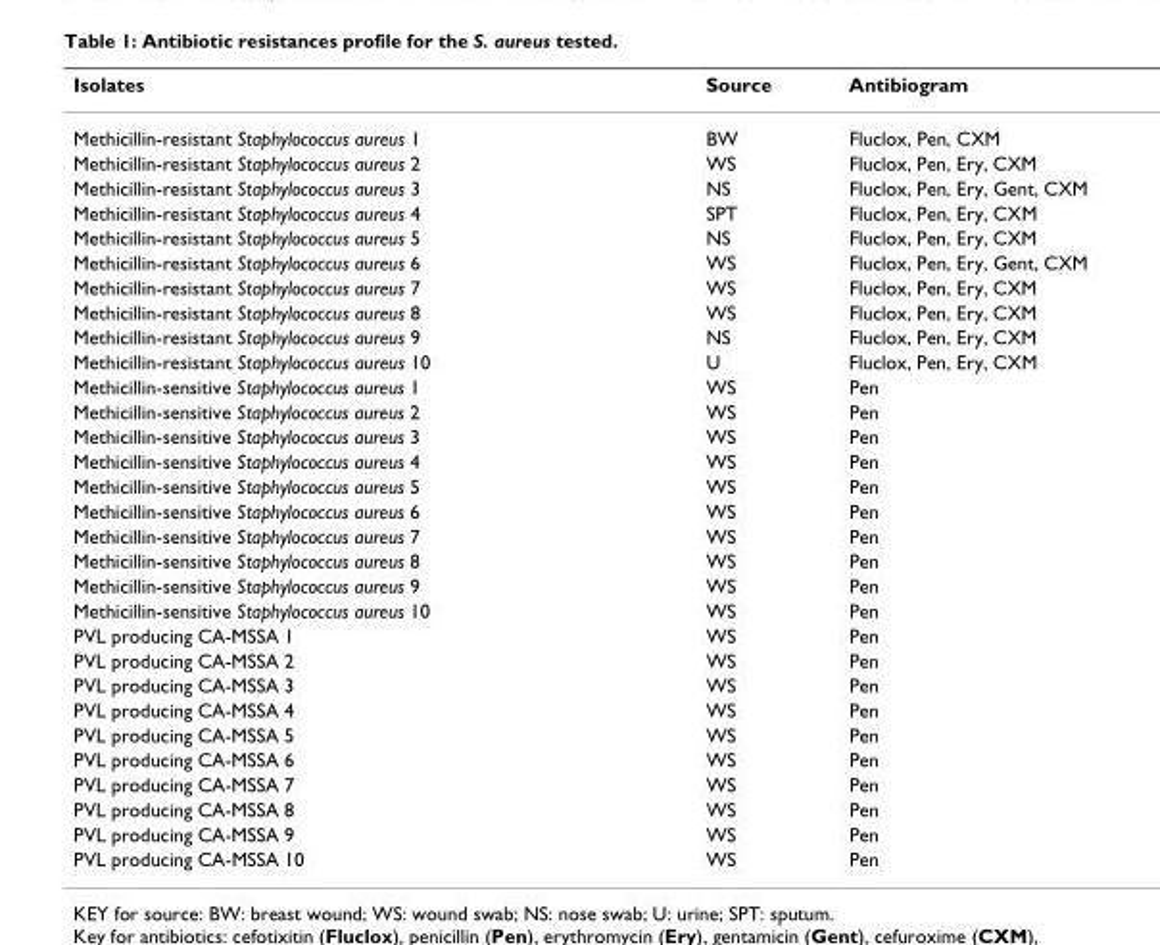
<table><thead><tr><td>Isolates</td><td>Source</td><td>Antibiogram</td></tr></thead><tbody><tr><td>Methicillin-resistant Staphylococcus aureus 1</td><td>BW</td><td>Fluclox, Pen, CXM</td></tr><tr><td>Methicillin-resistant Staphylococcus aureus 2</td><td>WS</td><td>Fluclox, Pen, Ery, CXM</td></tr><tr><td>Methicillin-resistant Staphylococcus aureus 3</td><td>NS</td><td>Fluclox, Pen, Ery, Gent, CXM</td></tr><tr><td>Methicillin-resistant Staphylococcus aureus 4</td><td>SPT</td><td>Fluclox, Pen, Ery, CXM</td></tr><tr><td>Methicillin-resistant Staphylococcus aureus 5</td><td>NS</td><td>Fluclox, Pen, Ery, CXM</td></tr><tr><td>Methicillin-resistant Staphylococcus aureus 6</td><td>WS</td><td>Fluclox, Pen, Ery, Gent, CXM</td></tr><tr><td>Methicillin-resistant Staphylococcus aureus 7</td><td>WS</td><td>Fluclox, Pen, Ery, CXM</td></tr><tr><td>Methicillin-resistant Staphylococcus aureus 8</td><td>WS</td><td>Fluclox, Pen, Ery, CXM</td></tr><tr><td>Methicillin-resistant Staphylococcus aureus 9</td><td>NS</td><td>Fluclox, Pen, Ery, CXM</td></tr><tr><td>Methicillin-resistant Staphylococcus aureus 10</td><td>U</td><td>Fluclox, Pen, Ery, CXM</td></tr><tr><td>Methicillin-sensitive Staphylococcus aureus 1</td><td>WS</td><td>Pen</td></tr><tr><td>Methicillin-sensitive Staphylococcus aureus 2</td><td>WS</td><td>Pen</td></tr><tr><td>Methicillin-sensitive Staphylococcus aureus 3</td><td>WS</td><td>Pen</td></tr><tr><td>Methicillin-sensitive Staphylococcus aureus 4</td><td>WS</td><td>Pen</td></tr><tr><td>Methicillin-sensitive Staphylococcus aureus 5</td><td>WS</td><td>Pen</td></tr><tr><td>Methicillin-sensitive Staphylococcus aureus 6</td><td>WS</td><td>Pen</td></tr><tr><td>Methicillin-sensitive Staphylococcus aureus 7</td><td>WS</td><td>Pen</td></tr><tr><td>Methicillin-sensitive Staphylococcus aureus 8</td><td>WS</td><td>Pen</td></tr><tr><td>Methicillin-sensitive Staphylococcus aureus 9</td><td>WS</td><td>Pen</td></tr><tr><td>Methicillin-sensitive Staphylococcus aureus 10</td><td>WS</td><td>Pen</td></tr><tr><td>PVL producing CA-MSSA 1</td><td>WS</td><td>Pen</td></tr><tr><td>PVL producing CA-MSSA 2</td><td>WS</td><td>Pen</td></tr><tr><td>PVL producing CA-MSSA 3</td><td>WS</td><td>Pen</td></tr><tr><td>PVL producing CA-MSSA 4</td><td>WS</td><td>Pen</td></tr><tr><td>PVL producing CA-MSSA 5</td><td>WS</td><td>Pen</td></tr><tr><td>PVL producing CA-MSSA 6</td><td>WS</td><td>Pen</td></tr><tr><td>PVL producing CA-MSSA 7</td><td>WS</td><td>Pen</td></tr><tr><td>PVL producing CA-MSSA 8</td><td>WS</td><td>Pen</td></tr><tr><td>PVL producing CA-MSSA 9</td><td>WS</td><td>Pen</td></tr><tr><td>PVL producing CA-MSSA 10</td><td>WS</td><td>Pen</td></tr></tbody></table>